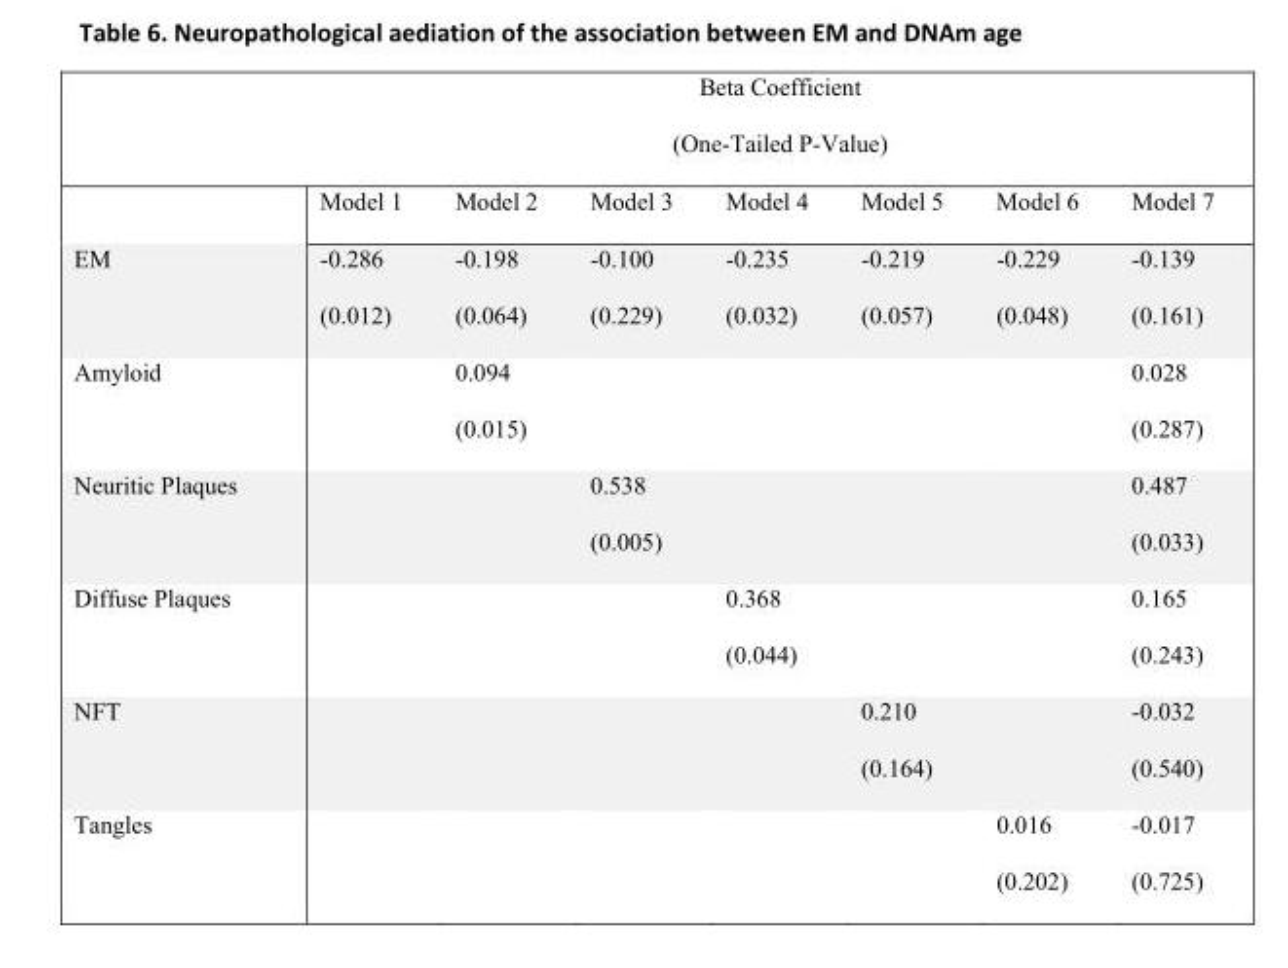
<table><thead><tr><td rowspan="2"></td><td colspan="7">Beta Coefficient (One-Tailed P-Value)</td></tr><tr><td>Model 1</td><td>Model 2</td><td>Model 3</td><td>Model 4</td><td>Model 5</td><td>Model 6</td><td>Model 7</td></tr></thead><tbody><tr><td>EM</td><td>-0.286 (0.012)</td><td>-0.198 (0.064)</td><td>-0.100 (0.229)</td><td>-0.235 (0.032)</td><td>-0.219 (0.057)</td><td>-0.229 (0.048)</td><td>-0.139 (0.161)</td></tr><tr><td>Amyloid</td><td></td><td>0.094 (0.015)</td><td></td><td></td><td></td><td></td><td>0.028 (0.287)</td></tr><tr><td>Neuritic Plaques</td><td></td><td></td><td>0.538 (0.005)</td><td></td><td></td><td></td><td>0.487 (0.033)</td></tr><tr><td>Diffuse Plaques</td><td></td><td></td><td></td><td>0.368 (0.044)</td><td></td><td></td><td>0.165 (0.243)</td></tr><tr><td>NFT</td><td></td><td></td><td></td><td></td><td>0.210 (0.164)</td><td></td><td>-0.032 (0.540)</td></tr><tr><td>Tangles</td><td></td><td></td><td></td><td></td><td></td><td>0.016 (0.202)</td><td>-0.017 (0.725)</td></tr></tbody></table>